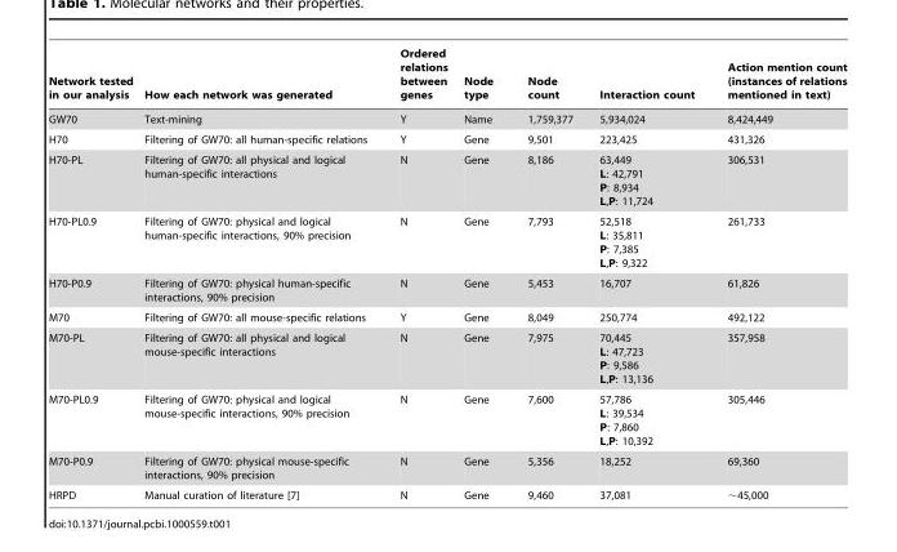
<table><thead><tr><td>Network tested in our analysis</td><td>How each network was generated</td><td>Ordered relations between genes</td><td>Node type</td><td>Node count</td><td>Interaction count</td><td>Action mention count (instances of relations mentioned in text)</td></tr></thead><tbody><tr><td>GW70</td><td>Text-mining</td><td>Y</td><td>Name</td><td>1,759,377</td><td>5,934,024</td><td>8,424,449</td></tr><tr><td>H70</td><td>Filtering of GW70: all human-specific relations</td><td>Y</td><td>Gene</td><td>9,501</td><td>223,425</td><td>431,326</td></tr><tr><td>H70-PL</td><td>Filtering of GW70: all physical and logical human-specific interactions</td><td>N</td><td>Gene</td><td>8,186</td><td>63,449 L: 42,791 P: 8,934 L,P: 11,724</td><td>306,531</td></tr><tr><td>H70-PL0.9</td><td>Filtering of GW70: physical and logical human-specific interactions, 90% precision</td><td>N</td><td>Gene</td><td>7,793</td><td>52,518 L: 35,811 P: 7,385 L,P: 9,322</td><td>261,733</td></tr><tr><td>H70-P0.9</td><td>Filtering of GW70: physical human-specific interactions, 90% precision</td><td>N</td><td>Gene</td><td>5,453</td><td>16,707</td><td>61,826</td></tr><tr><td>M70</td><td>Filtering of GW70: all mouse-specific relations</td><td>Y</td><td>Gene</td><td>8,049</td><td>250,774</td><td>492,122</td></tr><tr><td>M70-PL</td><td>Filtering of GW70: all physical and logical mouse-specific interactions</td><td>N</td><td>Gene</td><td>7,975</td><td>70,445 L: 47,723 P: 9,586 L,P: 13,136</td><td>357,958</td></tr><tr><td>M70-PL0.9</td><td>Filtering of GW70: physical and logical mouse-specific interactions, 90% precision</td><td>N</td><td>Gene</td><td>7,600</td><td>57,786 L: 39,534 P: 7,860 L,P: 10,392</td><td>305,446</td></tr><tr><td>M70-P0.9</td><td>Filtering of GW70: physical mouse-specific interactions, 90% precision</td><td>N</td><td>Gene</td><td>5,356</td><td>18,252</td><td>69,360</td></tr><tr><td>HRPD</td><td>Manual curation of literature [7]</td><td>N</td><td>Gene</td><td>9,460</td><td>37,081</td><td>∼45,000</td></tr></tbody></table>